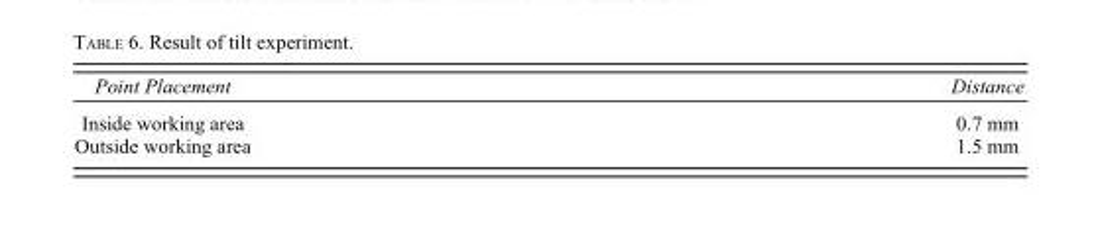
<table><thead><tr><td>Point Placement</td><td>Distance</td></tr></thead><tbody><tr><td>Inside working area</td><td>0.7 mm</td></tr><tr><td>Outside working area</td><td>1.5 mm</td></tr></tbody></table>